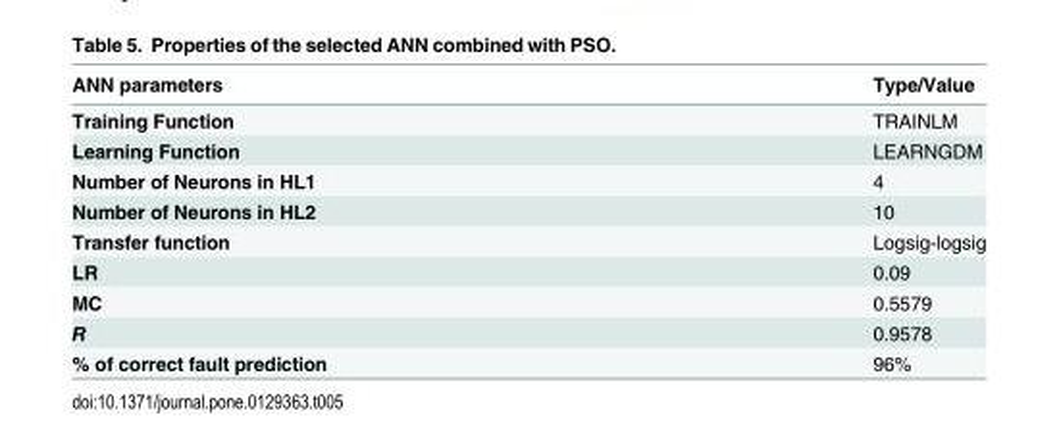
<table><thead><tr><td>ANN parameters</td><td>Type/Value</td></tr></thead><tbody><tr><td>Training Function</td><td>TRAINLM</td></tr><tr><td>Learning Function</td><td>LEARNGDM</td></tr><tr><td>Number of Neurons in HL1</td><td>4</td></tr><tr><td>Number of Neurons in HL2</td><td>10</td></tr><tr><td>Transfer function</td><td>Logsig-logsig</td></tr><tr><td>LR</td><td>0.09</td></tr><tr><td>MC</td><td>0.5579</td></tr><tr><td>R</td><td>0.9578</td></tr><tr><td>% of correct fault prediction</td><td>96%</td></tr></tbody></table>